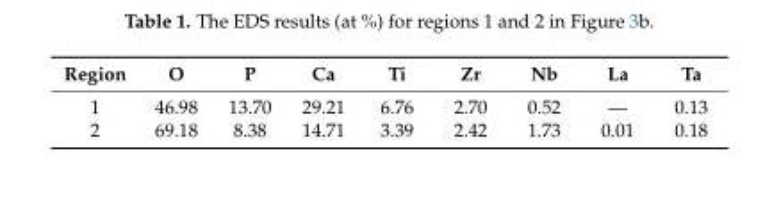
<table><thead><tr><td>Region</td><td>O</td><td>P</td><td>Ca</td><td>Ti</td><td>Zr</td><td>Nb</td><td>La</td><td>Ta</td></tr></thead><tbody><tr><td>1</td><td>46.98</td><td>13.70</td><td>29.21</td><td>6.76</td><td>2.70</td><td>0.52</td><td>—</td><td>0.13</td></tr><tr><td>2</td><td>69.18</td><td>8.38</td><td>14.71</td><td>3.39</td><td>2.42</td><td>1.73</td><td>0.01</td><td>0.18</td></tr></tbody></table>